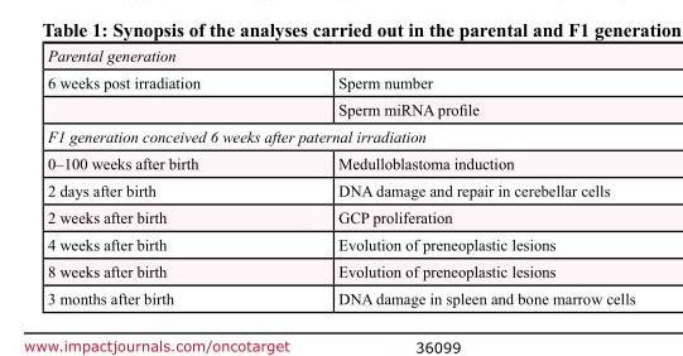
<table><tbody><tr><td colspan="2">Parental generation</td></tr><tr><td rowspan="2">6 weeks post irradiation</td><td>Sperm number</td></tr><tr><td>Sperm miRNA profile</td></tr><tr><td colspan="2">F1 generation conceived 6 weeks after paternal irradiation</td></tr><tr><td>0–100 weeks after birth</td><td>Medulloblastoma induction</td></tr><tr><td>2 days after birth</td><td>DNA damage and repair in cerebellar cells</td></tr><tr><td>2 weeks after birth</td><td>GCP proliferation</td></tr><tr><td>4 weeks after birth</td><td>Evolution of preneoplastic lesions</td></tr><tr><td>8 weeks after birth</td><td>Evolution of preneoplastic lesions</td></tr><tr><td>3 months after birth</td><td>DNA damage in spleen and bone marrow cells</td></tr></tbody></table>